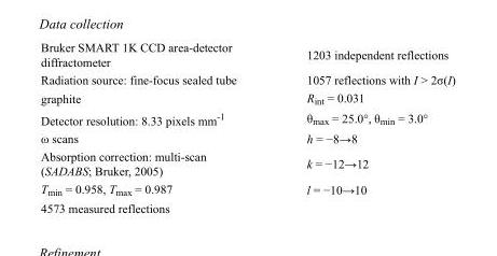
<table><tbody><tr><td>Bruker SMART 1K CCD area-detector diffractometer</td><td>1203 independent reflections</td></tr><tr><td>Radiation source: fine-focus sealed tube</td><td>1057 reflections with I &gt; 2σ(I)</td></tr><tr><td>graphite</td><td>R<sub>int</sub> = 0.031</td></tr><tr><td>Detector resolution: 8.33 pixels mm<sup>-1</sup></td><td>θ<sub>max</sub> = 25.0°, θ<sub>min</sub> = 3.0°</td></tr><tr><td>ω scans</td><td>h = −8→8</td></tr><tr><td>Absorption correction: multi-scan (SADABS; Bruker, 2005)</td><td>k = −12→12</td></tr><tr><td>T<sub>min</sub> = 0.958, T<sub>max</sub> = 0.987</td><td>l = −10→10</td></tr><tr><td>4573 measured reflections</td><td></td></tr></tbody></table>